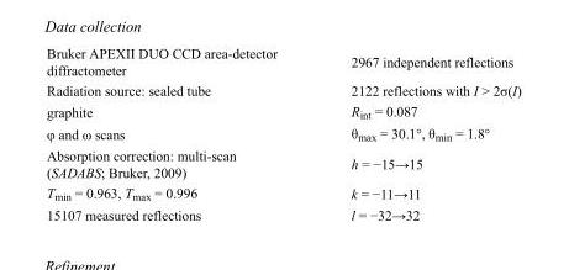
<table><tbody><tr><td>Bruker APEXII DUO CCD area-detector diffractometer</td><td>2967 independent reflections</td></tr><tr><td>Radiation source: sealed tube</td><td>2122 reflections with I &gt; 2σ(I)</td></tr><tr><td>graphite</td><td>R<sub>int</sub> = 0.087</td></tr><tr><td>φ and ω scans</td><td>θ<sub>max</sub> = 30.1°, θ<sub>min</sub> = 1.8°</td></tr><tr><td>Absorption correction: multi-scan (SADABS; Bruker, 2009)</td><td>h = −15→15</td></tr><tr><td>T<sub>min</sub> = 0.963, T<sub>max</sub> = 0.996</td><td>k = −11→11</td></tr><tr><td>15107 measured reflections</td><td>l = −32→32</td></tr></tbody></table>